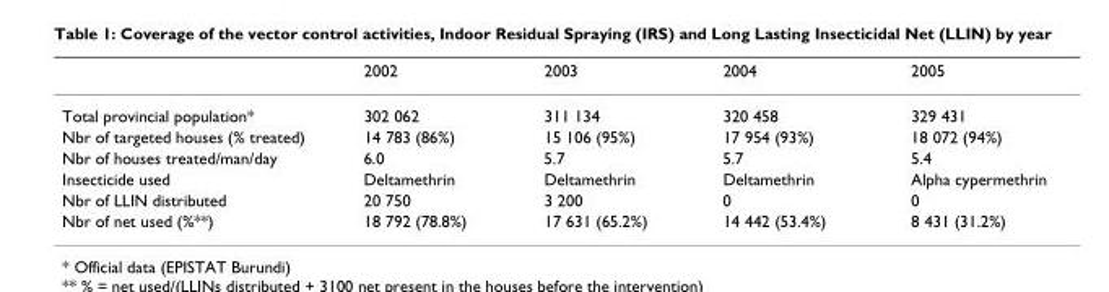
<table><thead><tr><td></td><td>2002</td><td>2003</td><td>2004</td><td>2005</td></tr></thead><tbody><tr><td>Total provincial population*</td><td>302 062</td><td>311 134</td><td>320 458</td><td>329 431</td></tr><tr><td>Nbr of targeted houses (% treated)</td><td>14 783 (86%)</td><td>15 106 (95%)</td><td>17 954 (93%)</td><td>18 072 (94%)</td></tr><tr><td>Nbr of houses treated/man/day</td><td>6.0</td><td>5.7</td><td>5.7</td><td>5.4</td></tr><tr><td>Insecticide used</td><td>Deltamethrin</td><td>Deltamethrin</td><td>Deltamethrin</td><td>Alpha cypermethrin</td></tr><tr><td>Nbr of LLIN distributed</td><td>20 750</td><td>3 200</td><td>0</td><td>0</td></tr><tr><td>Nbr of net used (%**)</td><td>18 792 (78.8%)</td><td>17 631 (65.2%)</td><td>14 442 (53.4%)</td><td>8 431 (31.2%)</td></tr></tbody></table>